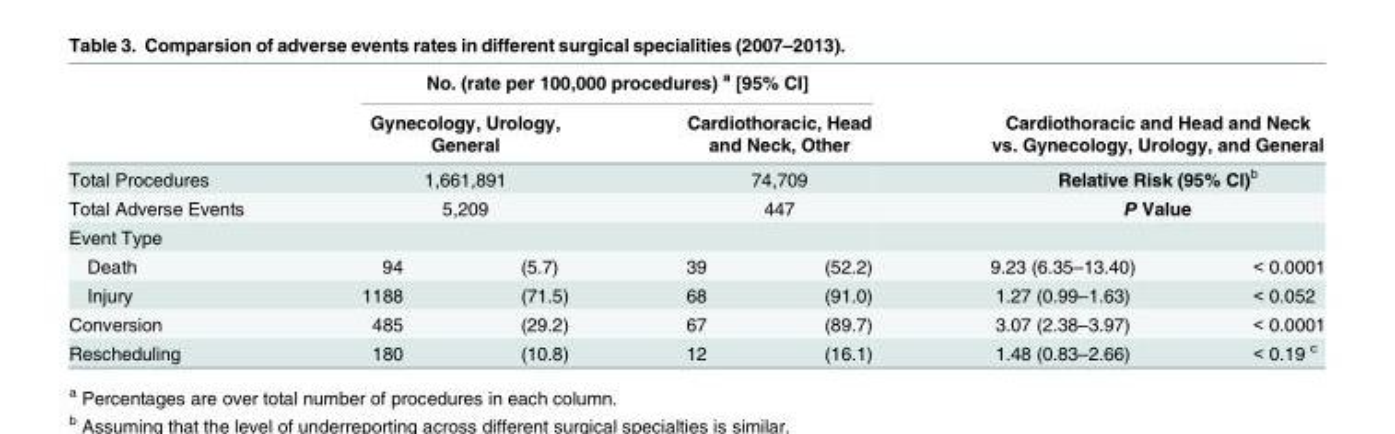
<table><thead><tr><td rowspan="2"></td><td colspan="4">No. (rate per 100,000 procedures) <sup>a</sup> [95% CI]</td><td></td><td></td></tr><tr><td colspan="2">Gynecology, Urology, General</td><td colspan="2">Cardiothoracic, Head and Neck, Other</td><td colspan="2">Cardiothoracic and Head and Neck vs. Gynecology, Urology, and General</td></tr></thead><tbody><tr><td>Total Procedures</td><td colspan="2">1,661,891</td><td colspan="2">74,709</td><td colspan="2">Relative Risk (95% Cl)<sup>b</sup></td></tr><tr><td>Total Adverse Events</td><td colspan="2">5,209</td><td colspan="2">447</td><td colspan="2">P Value</td></tr><tr><td colspan="7">Event Type</td></tr><tr><td>Death</td><td>94</td><td>(5.7)</td><td>39</td><td>(52.2)</td><td>9.23 (6.35–13.40)</td><td>&lt; 0.0001</td></tr><tr><td>Injury</td><td>1188</td><td>(71.5)</td><td>68</td><td>(91.0)</td><td>1.27 (0.99–1.63)</td><td>&lt; 0.052</td></tr><tr><td>Conversion</td><td>485</td><td>(29.2)</td><td>67</td><td>(89.7)</td><td>3.07 (2.38–3.97)</td><td>&lt; 0.0001</td></tr><tr><td>Rescheduling</td><td>180</td><td>(10.8)</td><td>12</td><td>(16.1)</td><td>1.48 (0.83–2.66)</td><td>&lt; 0.19 <sup>c</sup></td></tr></tbody></table>